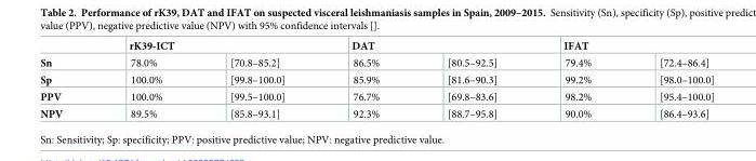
<table><thead><tr><td rowspan="2">Sn</td><td colspan="2">rK39-ICT</td><td colspan="2">DAT</td><td colspan="2">IFAT</td></tr><tr><td>78.0%</td><td>[70.8–85.2]</td><td>86.5%</td><td>[80.5–92.5]</td><td>79.4%</td><td>[72.4–86.4]</td></tr></thead><tbody><tr><td>Sp</td><td>100.0%</td><td>[99.8–100.0]</td><td>85.9%</td><td>[81.6–90.3]</td><td>99.2%</td><td>[98.0–100.0]</td></tr><tr><td>PPV</td><td>100.0%</td><td>[99.5–100.0]</td><td>76.7%</td><td>[69.8–83.6]</td><td>98.2%</td><td>[95.4–100.0]</td></tr><tr><td>NPV</td><td>89.5%</td><td>[85.8–93.1]</td><td>92.3%</td><td>[88.7–95.8]</td><td>90.0%</td><td>[86.4–93.6]</td></tr></tbody></table>